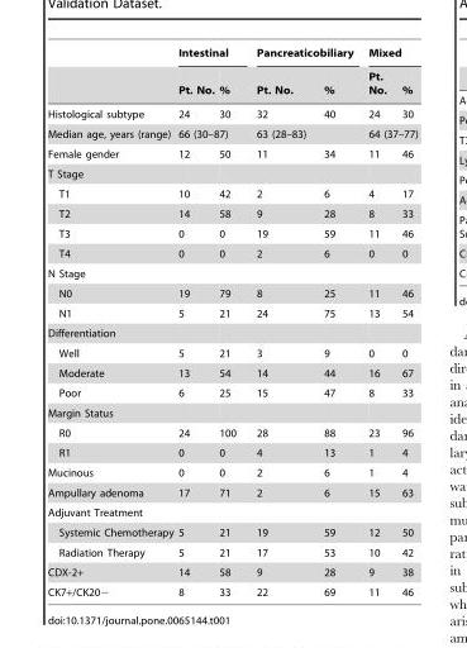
<table><thead><tr><td rowspan="2"></td><td colspan="2">Intestinal</td><td colspan="2">Pancreaticobiliary</td><td colspan="2">Mixed</td></tr><tr><td>Pt. No.</td><td>%</td><td>Pt. No.</td><td>%</td><td>Pt. No.</td><td>%</td></tr></thead><tbody><tr><td>Histological subtype</td><td>24</td><td>30</td><td>32</td><td>40</td><td>24</td><td>30</td></tr><tr><td>Median age, years (range)</td><td colspan="2">66 (30–87)</td><td colspan="2">63 (28–83)</td><td colspan="2">64 (37–77)</td></tr><tr><td>Female gender</td><td>12</td><td>50</td><td>11</td><td>34</td><td>11</td><td>46</td></tr><tr><td colspan="7">T Stage</td></tr><tr><td>T1</td><td>10</td><td>42</td><td>2</td><td>6</td><td>4</td><td>17</td></tr><tr><td>T2</td><td>14</td><td>58</td><td>9</td><td>28</td><td>8</td><td>33</td></tr><tr><td>T3</td><td>0</td><td>0</td><td>19</td><td>59</td><td>11</td><td>46</td></tr><tr><td>T4</td><td>0</td><td>0</td><td>2</td><td>6</td><td>0</td><td>0</td></tr><tr><td colspan="7">N Stage</td></tr><tr><td>N0</td><td>19</td><td>79</td><td>8</td><td>25</td><td>11</td><td>46</td></tr><tr><td>N1</td><td>5</td><td>21</td><td>24</td><td>75</td><td>13</td><td>54</td></tr><tr><td colspan="7">Differentiation</td></tr><tr><td>Well</td><td>5</td><td>21</td><td>3</td><td>9</td><td>0</td><td>0</td></tr><tr><td>Moderate</td><td>13</td><td>54</td><td>14</td><td>44</td><td>16</td><td>67</td></tr><tr><td>Poor</td><td>6</td><td>25</td><td>15</td><td>47</td><td>8</td><td>33</td></tr><tr><td colspan="7">Margin Status</td></tr><tr><td>R0</td><td>24</td><td>100</td><td>28</td><td>88</td><td>23</td><td>96</td></tr><tr><td>R1</td><td>0</td><td>0</td><td>4</td><td>13</td><td>1</td><td>4</td></tr><tr><td>Mucinous</td><td>0</td><td>0</td><td>2</td><td>6</td><td>1</td><td>4</td></tr><tr><td>Ampullary adenoma</td><td>17</td><td>71</td><td>2</td><td>6</td><td>15</td><td>63</td></tr><tr><td colspan="7">Adjuvant Treatment</td></tr><tr><td>Systemic Chemotherapy</td><td>5</td><td>21</td><td>19</td><td>59</td><td>12</td><td>50</td></tr><tr><td>Radiation Therapy</td><td>5</td><td>21</td><td>17</td><td>53</td><td>10</td><td>42</td></tr><tr><td>CDX-2+</td><td>14</td><td>58</td><td>9</td><td>28</td><td>9</td><td>38</td></tr><tr><td>CK7+/CK20−</td><td>8</td><td>33</td><td>22</td><td>69</td><td>11</td><td>46</td></tr></tbody></table>